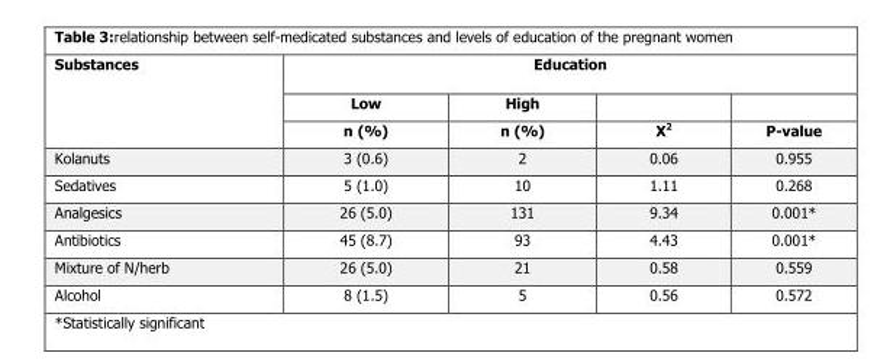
<table><thead><tr><td rowspan="3">Substances</td><td colspan="4">Education</td></tr><tr><td rowspan="2">Low n (%)</td><td rowspan="2">High n (%)</td><td rowspan="2">X<sup>2</sup></td><td rowspan="2">P-value</td></tr><tr></tr></thead><tbody><tr><td>Kolanuts</td><td>3 (0.6)</td><td>2</td><td>0.06</td><td>0.955</td></tr><tr><td>Sedatives</td><td>5 (1.0)</td><td>10</td><td>1.11</td><td>0.268</td></tr><tr><td>Analgesics</td><td>26 (5.0)</td><td>131</td><td>9.34</td><td>0.001*</td></tr><tr><td>Antibiotics</td><td>45 (8.7)</td><td>93</td><td>4.43</td><td>0.001*</td></tr><tr><td>Mixture of N/herb</td><td>26 (5.0)</td><td>21</td><td>0.58</td><td>0.559</td></tr><tr><td>Alcohol</td><td>8 (1.5)</td><td>5</td><td>0.56</td><td>0.572</td></tr></tbody></table>